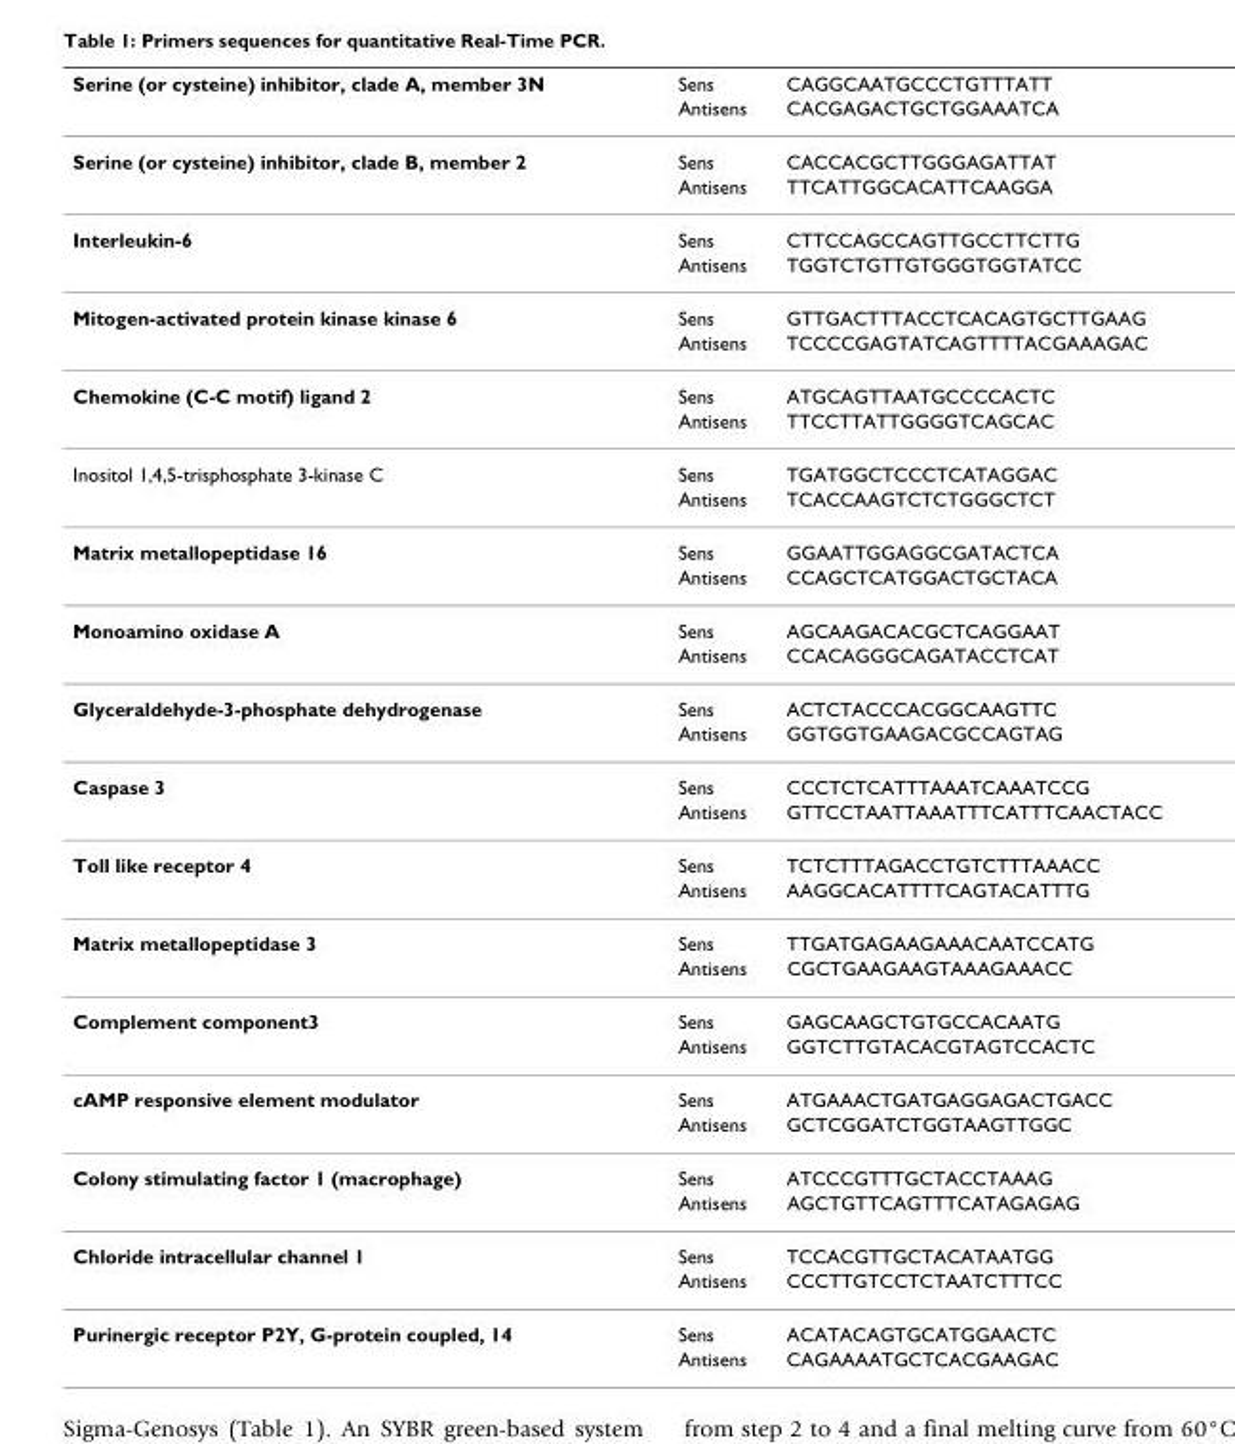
<table><thead><tr><td rowspan="2">Serine (or cysteine) inhibitor, clade A, member 3N</td><td rowspan="2">Sens Antisens</td><td rowspan="2">CAGGCAATGCCCTGTTTATT CACGAGACTGCTGGAAATCA</td></tr><tr></tr></thead><tbody><tr><td rowspan="2">Serine (or cysteine) inhibitor, clade B, member 2</td><td>Sens</td><td>CACCACGCTTGGGAGATTAT</td></tr><tr><td>Antisens</td><td>TTCATTGGCACATTCAAGGA</td></tr><tr><td rowspan="2">Interleukin-6</td><td>Sens</td><td>CTTCCAGCCAGTTGCCTTCTTG</td></tr><tr><td>Antisens</td><td>TGGTCTGTTGTGGGTGGTATCC</td></tr><tr><td rowspan="2">Mitogen-activated protein kinase kinase 6</td><td>Sens</td><td>GTTGACTTTACCTCACAGTGCTTGAAG</td></tr><tr><td>Antisens</td><td>TCCCCGAGTATCAGTTTTACGAAAGAC</td></tr><tr><td rowspan="2">Chemokine (C-C motif) ligand 2</td><td>Sens</td><td>ATGCAGTTAATGCCCCACTC</td></tr><tr><td>Antisens</td><td>TTCCTTATTGGGGTCAGCAC</td></tr><tr><td rowspan="2">Inositol 1,4,5-trisphosphate 3-kinase C</td><td>Sens</td><td>TGATGGCTCCCTCATAGGAC</td></tr><tr><td>Antisens</td><td>TCACCAAGTCTCTGGGCTCT</td></tr><tr><td rowspan="2">Matrix metallopeptidase 16</td><td>Sens</td><td>GGAATTGGAGGCGATACTCA</td></tr><tr><td>Antisens</td><td>CCAGCTCATGGACTGCTACA</td></tr><tr><td rowspan="2">Monoamino oxidase A</td><td>Sens</td><td>AGCAAGACACGCTCAGGAAT</td></tr><tr><td>Antisens</td><td>CCACAGGGCAGATACCTCAT</td></tr><tr><td rowspan="2">Glyceraldehyde-3-phosphate dehydrogenase</td><td>Sens</td><td>ACTCTACCCACGGCAAGTTC</td></tr><tr><td>Antisens</td><td>GGTGGTGAAGACGCCAGTAG</td></tr><tr><td rowspan="2">Caspase 3</td><td>Sens</td><td>CCCTCTCATTTAAATCAAATCCG</td></tr><tr><td>Antisens</td><td>GTTCCTAATTAAATTTCATTTCAACTACC</td></tr><tr><td rowspan="2">Toll like receptor 4</td><td>Sens</td><td>TCTCTTTAGACCTGTCTTTAAACC</td></tr><tr><td>Antisens</td><td>AAGGCACATTTTCAGTACATTTG</td></tr><tr><td rowspan="2">Matrix metallopeptidase 3</td><td>Sens</td><td>TTGATGAGAAGAAACAATCCATG</td></tr><tr><td>Antisens</td><td>CGCTGAAGAAGTAAAGAAACC</td></tr><tr><td rowspan="2">Complement component3</td><td>Sens</td><td>GAGCAAGCTGTGCCACAATG</td></tr><tr><td>Antisens</td><td>GGTCTTGTACACGTAGTCCACTC</td></tr><tr><td rowspan="2">cAMP responsive element modulator</td><td>Sens</td><td>ATGAAACTGATGAGGAGACTGACC</td></tr><tr><td>Antisens</td><td>GCTCGGATCTGGTAAGTTGGC</td></tr><tr><td rowspan="2">Colony stimulating factor 1 (macrophage)</td><td>Sens</td><td>ATCCCGTTTGCTACCTAAAG</td></tr><tr><td>Antisens</td><td>AGCTGTTCAGTTTCATAGAGAG</td></tr><tr><td rowspan="2">Chloride intracellular channel 1</td><td>Sens</td><td>TCCACGTTGCTACATAATGG</td></tr><tr><td>Antisens</td><td>CCCTTGTCCTCTAATCTTTCC</td></tr><tr><td rowspan="2">Purinergic receptor P2Y, G-protein coupled, 14</td><td>Sens</td><td>ACATACAGTGCATGGAACTC</td></tr><tr><td>Antisens</td><td>CAGAAAATGCTCACGAAGAC</td></tr></tbody></table>